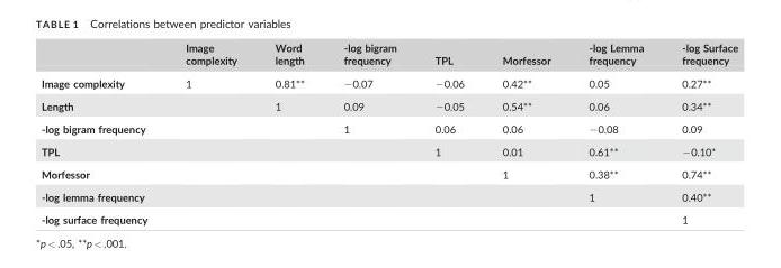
<table><thead><tr><td></td><td>Image complexity</td><td>Word length</td><td>-log bigram frequency</td><td>TPL</td><td>Morfessor</td><td>-log Lemma frequency</td><td>-log Surface frequency</td></tr></thead><tbody><tr><td>Image complexity</td><td>1</td><td>0.81**</td><td>−0.07</td><td>−0.06</td><td>0.42**</td><td>0.05</td><td>0.27**</td></tr><tr><td>Length</td><td></td><td>1</td><td>0.09</td><td>−0.05</td><td>0.54**</td><td>0.06</td><td>0.34**</td></tr><tr><td>-log bigram frequency</td><td></td><td></td><td>1</td><td>0.06</td><td>0.06</td><td>−0.08</td><td>0.09</td></tr><tr><td>TPL</td><td></td><td></td><td></td><td>1</td><td>0.01</td><td>0.61**</td><td>−0.10*</td></tr><tr><td>Morfessor</td><td></td><td></td><td></td><td></td><td>1</td><td>0.38**</td><td>0.74**</td></tr><tr><td>-log lemma frequency</td><td></td><td></td><td></td><td></td><td></td><td>1</td><td>0.40**</td></tr><tr><td>-log surface frequency</td><td></td><td></td><td></td><td></td><td></td><td></td><td>1</td></tr></tbody></table>